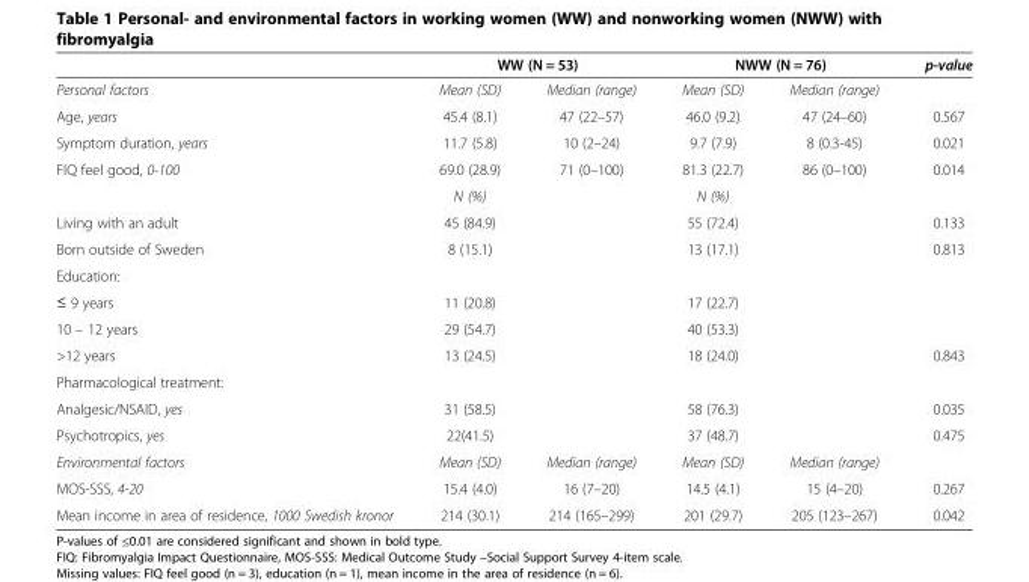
<table><thead><tr><td rowspan="2">Personal factors</td><td colspan="2">WW (N = 53)</td><td colspan="2">NWW (N = 76)</td><td rowspan="2">p-value</td></tr><tr><td>Mean (SD)</td><td>Median (range)</td><td>Mean (SD)</td><td>Median (range)</td></tr></thead><tbody><tr><td>Age, years</td><td>45.4 (8.1)</td><td>47 (22–57)</td><td>46.0 (9.2)</td><td>47 (24–60)</td><td>0.567</td></tr><tr><td>Symptom duration, years</td><td>11.7 (5.8)</td><td>10 (2–24)</td><td>9.7 (7.9)</td><td>8 (0.3-45)</td><td>0.021</td></tr><tr><td rowspan="2">FIQ feel good, 0-100</td><td>69.0 (28.9)</td><td>71 (0–100)</td><td>81.3 (22.7)</td><td>86 (0–100)</td><td>0.014</td></tr><tr><td>N (%)</td><td></td><td>N (%)</td><td></td><td></td></tr><tr><td>Living with an adult</td><td>45 (84.9)</td><td></td><td>55 (72.4)</td><td></td><td>0.133</td></tr><tr><td>Born outside of Sweden</td><td>8 (15.1)</td><td></td><td>13 (17.1)</td><td></td><td>0.813</td></tr><tr><td colspan="6">Education:</td></tr><tr><td>≤ 9 years</td><td>11 (20.8)</td><td></td><td>17 (22.7)</td><td></td><td></td></tr><tr><td>10 – 12 years</td><td>29 (54.7)</td><td></td><td>40 (53.3)</td><td></td><td></td></tr><tr><td>&gt;12 years</td><td>13 (24.5)</td><td></td><td>18 (24.0)</td><td></td><td>0.843</td></tr><tr><td colspan="6">Pharmacological treatment:</td></tr><tr><td>Analgesic/NSAID, yes</td><td>31 (58.5)</td><td></td><td>58 (76.3)</td><td></td><td>0.035</td></tr><tr><td>Psychotropics, yes</td><td>22(41.5)</td><td></td><td>37 (48.7)</td><td></td><td>0.475</td></tr><tr><td>Environmental factors</td><td>Mean (SD)</td><td>Median (range)</td><td>Mean (SD)</td><td>Median (range)</td><td></td></tr><tr><td>MOS-SSS, 4-20</td><td>15.4 (4.0)</td><td>16 (7–20)</td><td>14.5 (4.1)</td><td>15 (4–20)</td><td>0.267</td></tr><tr><td>Mean income in area of residence, 1000 Swedish kronor</td><td>214 (30.1)</td><td>214 (165–299)</td><td>201 (29.7)</td><td>205 (123–267)</td><td>0.042</td></tr></tbody></table>